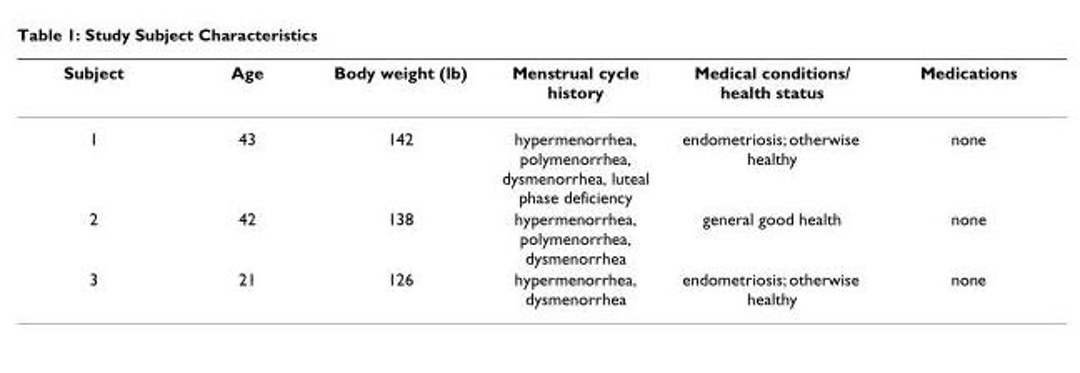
<table><thead><tr><td>Subject</td><td>Age</td><td>Body weight (lb)</td><td>Menstrual cycle history</td><td>Medical conditions/ health status</td><td>Medications</td></tr></thead><tbody><tr><td>1</td><td>43</td><td>142</td><td>hypermenorrhea, polymenorrhea, dysmenorrhea, luteal phase deficiency</td><td>endometriosis; otherwise healthy</td><td>none</td></tr><tr><td>2</td><td>42</td><td>138</td><td>hypermenorrhea, polymenorrhea, dysmenorrhea</td><td>general good health</td><td>none</td></tr><tr><td>3</td><td>21</td><td>126</td><td>hypermenorrhea, dysmenorrhea</td><td>endometriosis; otherwise healthy</td><td>none</td></tr></tbody></table>